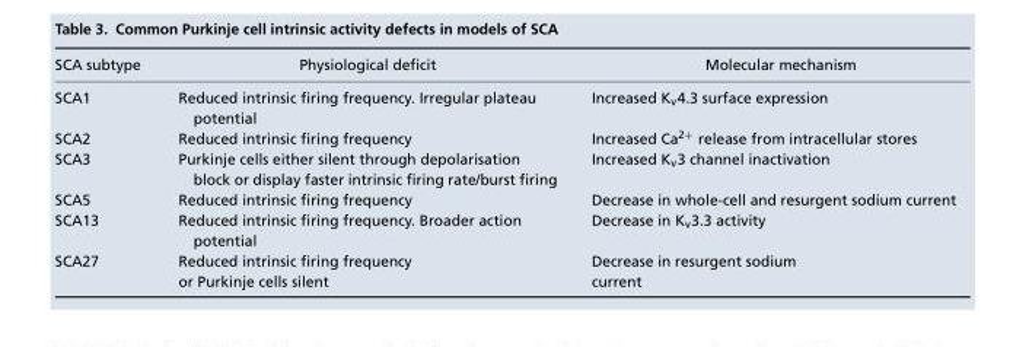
<table><thead><tr><td>SCA subtype</td><td>Physiological deficit</td><td>Molecular mechanism</td></tr></thead><tbody><tr><td>SCA1</td><td>Reduced intrinsic firing frequency. Irregular plateau potential</td><td>Increased K<sub>v</sub>4.3 surface expression</td></tr><tr><td>SCA2</td><td>Reduced intrinsic firing frequency</td><td>Increased Ca<sup>2+</sup> release from intracellular stores</td></tr><tr><td>SCA3</td><td>Purkinje cells either silent through depolarisation block or display faster intrinsic firing rate/burst firing</td><td>Increased K<sub>v</sub>3 channel inactivation</td></tr><tr><td>SCA5</td><td>Reduced intrinsic firing frequency</td><td>Decrease in whole-cell and resurgent sodium current</td></tr><tr><td>SCA13</td><td>Reduced intrinsic firing frequency. Broader action potential</td><td>Decrease in K<sub>v</sub>3.3 activity</td></tr><tr><td rowspan="2">SCA27</td><td>Reduced intrinsic firing frequency</td><td>Decrease in resurgent sodium</td></tr><tr><td>or Purkinje cells silent</td><td>current</td></tr></tbody></table>